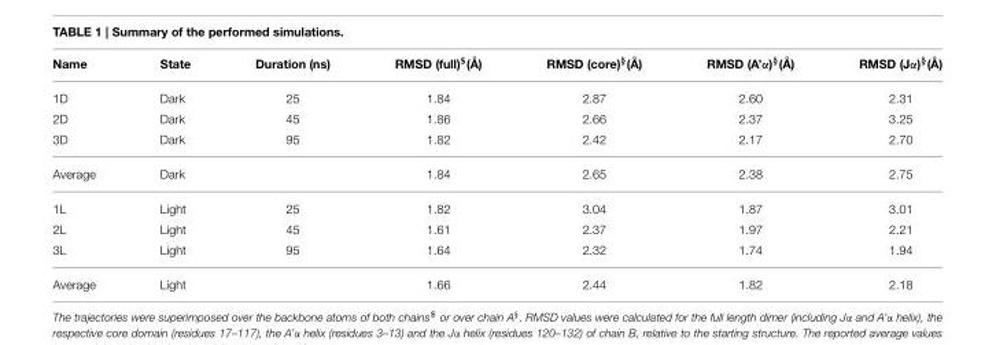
<table><thead><tr><td>Name</td><td>State</td><td>Duration (ns)</td><td>RMSD (full)<sup>$</sup>(Å)</td><td>RMSD (core)<sup>§</sup>(Å)</td><td>RMSD (A’α)<sup>§</sup>(Å)</td><td>RMSD (Jα)<sup>§</sup>(Å)</td></tr></thead><tbody><tr><td>1D</td><td>Dark</td><td>25</td><td>1.84</td><td>2.87</td><td>2.60</td><td>2.31</td></tr><tr><td>2D</td><td>Dark</td><td>45</td><td>1.86</td><td>2.66</td><td>2.37</td><td>3.25</td></tr><tr><td>3D</td><td>Dark</td><td>95</td><td>1.82</td><td>2.42</td><td>2.17</td><td>2.70</td></tr><tr><td>Average</td><td>Dark</td><td></td><td>1.84</td><td>2.65</td><td>2.38</td><td>2.75</td></tr><tr><td>1L</td><td>Light</td><td>25</td><td>1.82</td><td>3.04</td><td>1.87</td><td>3.01</td></tr><tr><td>2L</td><td>Light</td><td>45</td><td>1.61</td><td>2.37</td><td>1.97</td><td>2.21</td></tr><tr><td>3L</td><td>Light</td><td>95</td><td>1.64</td><td>2.32</td><td>1.74</td><td>1.94</td></tr><tr><td>Average</td><td>Light</td><td></td><td>1.66</td><td>2.44</td><td>1.82</td><td>2.18</td></tr></tbody></table>